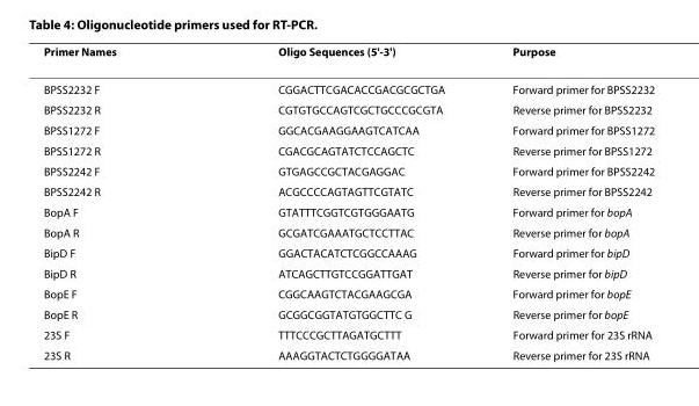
<table><thead><tr><td>Primer Names</td><td>Oligo Sequences (5&#x27;-3&#x27;)</td><td>Purpose</td></tr></thead><tbody><tr><td>BPSS2232 F</td><td>CGGACTTCGACACCGACGCGCTGA</td><td>Forward primer for BPSS2232</td></tr><tr><td>BPSS2232 R</td><td>CGTGTGCCAGTCGCTGCCCGCGTA</td><td>Reverse primer for BPSS2232</td></tr><tr><td>BPSS1272 F</td><td>GGCACGAAGGAAGTCATCAA</td><td>Forward primer for BPSS1272</td></tr><tr><td>BPSS1272 R</td><td>CGACGCAGTATCTCCAGCTC</td><td>Reverse primer for BPSS1272</td></tr><tr><td>BPSS2242 F</td><td>GTGAGCCGCTACGAGGAC</td><td>Forward primer for BPSS2242</td></tr><tr><td>BPSS2242 R</td><td>ACGCCCCAGTAGTTCGTATC</td><td>Reverse primer for BPSS2242</td></tr><tr><td>BopA F</td><td>GTATTTCGGTCGTGGGAATG</td><td>Forward primer for bopA</td></tr><tr><td>BopA R</td><td>GCGATCGAAATGCTCCTTAC</td><td>Reverse primer for bopA</td></tr><tr><td>BipD F</td><td>GGACTACATCTCGGCCAAAG</td><td>Forward primer for bipD</td></tr><tr><td>BipD R</td><td>ATCAGCTTGTCCGGATTGAT</td><td>Reverse primer for bipD</td></tr><tr><td>BopE F</td><td>CGGCAAGTCTACGAAGCGA</td><td>Forward primer for bopE</td></tr><tr><td>BopE R</td><td>GCGGCGGTATGTGGCTTC G</td><td>Reverse primer for bopE</td></tr><tr><td>23S F</td><td>TTTCCCGCTTAGATGCTTT</td><td>Forward primer for 23S rRNA</td></tr><tr><td>23S R</td><td>AAAGGTACTCTGGGGATAA</td><td>Reverse primer for 23S rRNA</td></tr></tbody></table>